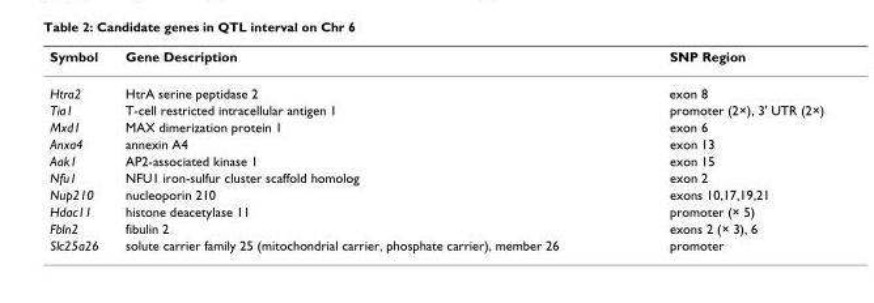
<table><thead><tr><td>Symbol</td><td>Gene Description</td><td>SNP Region</td></tr></thead><tbody><tr><td>Htra2</td><td>HtrA serine peptidase 2</td><td>exon 8</td></tr><tr><td>Tia1</td><td>T-cell restricted intracellular antigen 1</td><td>promoter (2×), 3&#x27; UTR (2×)</td></tr><tr><td>Mxd1</td><td>MAX dimerization protein 1</td><td>exon 6</td></tr><tr><td>Anxa4</td><td>annexin A4</td><td>exon 13</td></tr><tr><td>Aak1</td><td>AP2-associated kinase 1</td><td>exon 15</td></tr><tr><td>Nfu1</td><td>NFU1 iron-sulfur cluster scaffold homolog</td><td>exon 2</td></tr><tr><td>Nup210</td><td>nucleoporin 210</td><td>exons 10,17,19,21</td></tr><tr><td>Hdac11</td><td>histone deacetylase 11</td><td>promoter (× 5)</td></tr><tr><td>Fbln2</td><td>fibulin 2</td><td>exons 2 (× 3), 6</td></tr><tr><td>Slc25a26</td><td>solute carrier family 25 (mitochondrial carrier, phosphate carrier), member 26</td><td>promoter</td></tr></tbody></table>